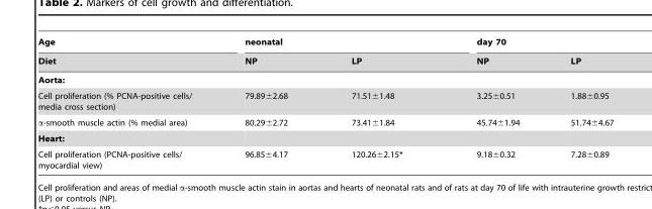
<table><thead><tr><td rowspan="2">Age Diet</td><td colspan="2">neonatal</td><td colspan="2">day 70</td></tr><tr><td>NP</td><td>LP</td><td>NP</td><td>LP</td></tr></thead><tbody><tr><td colspan="5">Aorta:</td></tr><tr><td>Cell proliferation (% PCNA-positive cells/ media cross section)</td><td>79.89±2.68</td><td>71.51±1.48</td><td>3.25±0.51</td><td>1.88±0.95</td></tr><tr><td>α-smooth muscle actin (% medial area)</td><td>80.29±2.72</td><td>73.41±1.84</td><td>45.74±1.94</td><td>51.74±4.67</td></tr><tr><td colspan="5">Heart:</td></tr><tr><td>Cell proliferation (PCNA-positive cells/ myocardial view)</td><td>96.85±4.17</td><td>120.26±2.15*</td><td>9.18±0.32</td><td>7.28±0.89</td></tr></tbody></table>